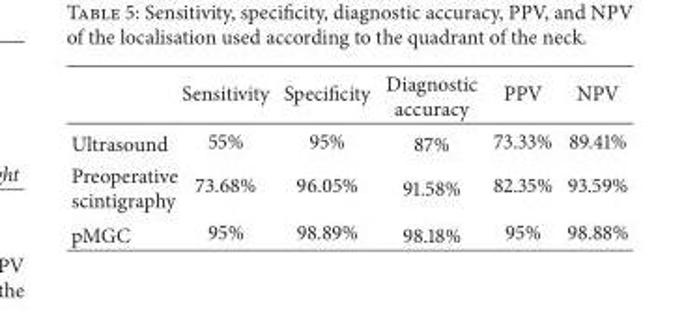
<table><thead><tr><td></td><td>Sensitivity</td><td>Specificity</td><td>Diagnostic accuracy</td><td>PPV</td><td>NPV</td></tr></thead><tbody><tr><td>Ultrasound</td><td>55%</td><td>95%</td><td>87%</td><td>73.33%</td><td>89.41%</td></tr><tr><td>Preoperative scintigraphy</td><td>73.68%</td><td>96.05%</td><td>91.58%</td><td>82.35%</td><td>93.59%</td></tr><tr><td>pMGC</td><td>95%</td><td>98.89%</td><td>98.18%</td><td>95%</td><td>98.88%</td></tr></tbody></table>